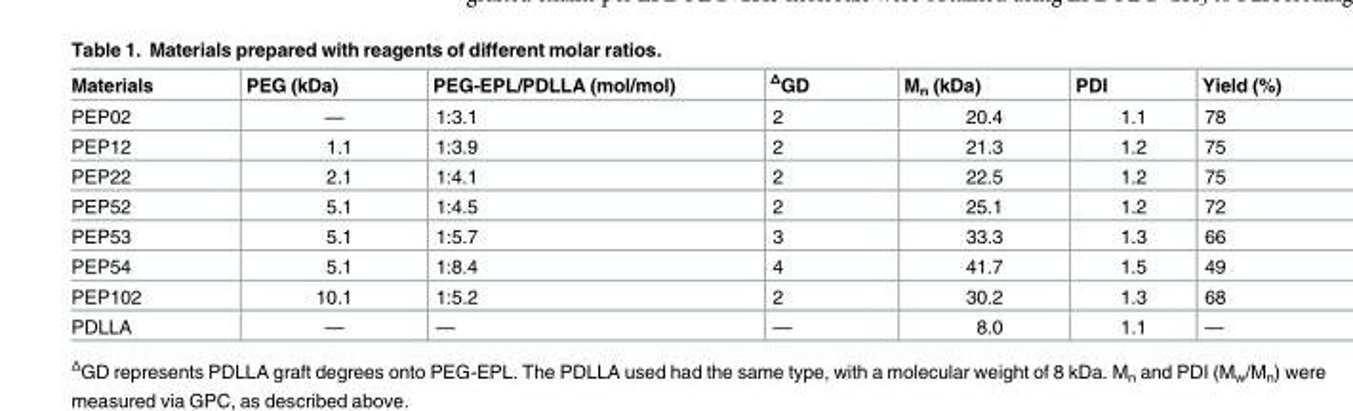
<table><thead><tr><td>Materials</td><td>PEG (kDa)</td><td>PEG-EPL/PDLLA (mol/mol)</td><td><sup>Δ</sup>GD</td><td>M<sub>n</sub> (kDa)</td><td>PDI</td><td>Yield (%)</td></tr></thead><tbody><tr><td>PEP02</td><td>—</td><td>1:3.1</td><td>2</td><td>20.4</td><td>1.1</td><td>78</td></tr><tr><td>PEP12</td><td>1.1</td><td>1:3.9</td><td>2</td><td>21.3</td><td>1.2</td><td>75</td></tr><tr><td>PEP22</td><td>2.1</td><td>1:4.1</td><td>2</td><td>22.5</td><td>1.2</td><td>75</td></tr><tr><td>PEP52</td><td>5.1</td><td>1:4.5</td><td>2</td><td>25.1</td><td>1.2</td><td>72</td></tr><tr><td>PEP53</td><td>5.1</td><td>1:5.7</td><td>3</td><td>33.3</td><td>1.3</td><td>66</td></tr><tr><td>PEP54</td><td>5.1</td><td>1:8.4</td><td>4</td><td>41.7</td><td>1.5</td><td>49</td></tr><tr><td>PEP102</td><td>10.1</td><td>1:5.2</td><td>2</td><td>30.2</td><td>1.3</td><td>68</td></tr><tr><td>PDLLA</td><td>—</td><td>—</td><td>—</td><td>8.0</td><td>1.1</td><td>—</td></tr></tbody></table>